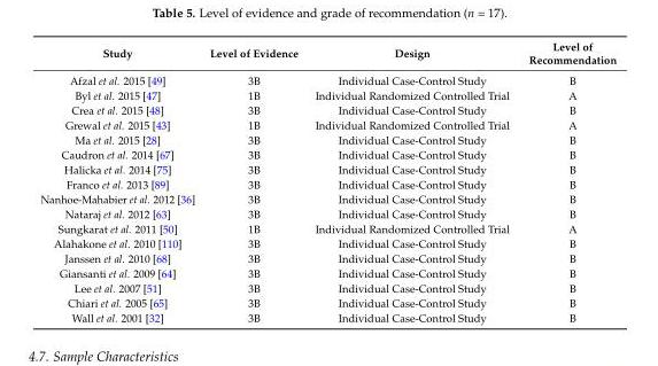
<table><thead><tr><td>Study</td><td>Level of Evidence</td><td>Design</td><td>Level of Recommendation</td></tr></thead><tbody><tr><td>Afzal et al. 2015 [49]</td><td>3B</td><td>Individual Case-Control Study</td><td>B</td></tr><tr><td>Byl et al. 2015 [47]</td><td>1B</td><td>Individual Randomized Controlled Trial</td><td>A</td></tr><tr><td>Crea et al. 2015 [48]</td><td>3B</td><td>Individual Case-Control Study</td><td>B</td></tr><tr><td>Grewal et al. 2015 [43]</td><td>1B</td><td>Individual Randomized Controlled Trial</td><td>A</td></tr><tr><td>Ma et al. 2015 [28]</td><td>3B</td><td>Individual Case-Control Study</td><td>B</td></tr><tr><td>Caudron et al. 2014 [67]</td><td>3B</td><td>Individual Case-Control Study</td><td>B</td></tr><tr><td>Halicka et al. 2014 [75]</td><td>3B</td><td>Individual Case-Control Study</td><td>B</td></tr><tr><td>Franco et al. 2013 [89]</td><td>3B</td><td>Individual Case-Control Study</td><td>B</td></tr><tr><td>Nanhoe-Mahabier et al. 2012 [36]</td><td>3B</td><td>Individual Case-Control Study</td><td>B</td></tr><tr><td>Nataraj et al. 2012 [63]</td><td>3B</td><td>Individual Case-Control Study</td><td>B</td></tr><tr><td>Sungkarat et al. 2011 [50]</td><td>1B</td><td>Individual Randomized Controlled Trial</td><td>A</td></tr><tr><td>Alahakone et al. 2010 [110]</td><td>3B</td><td>Individual Case-Control Study</td><td>B</td></tr><tr><td>Janssen et al. 2010 [68]</td><td>3B</td><td>Individual Case-Control Study</td><td>B</td></tr><tr><td>Giansanti et al. 2009 [64]</td><td>3B</td><td>Individual Case-Control Study</td><td>B</td></tr><tr><td>Lee et al. 2007 [51]</td><td>3B</td><td>Individual Case-Control Study</td><td>B</td></tr><tr><td>Chiari et al. 2005 [65]</td><td>3B</td><td>Individual Case-Control Study</td><td>B</td></tr><tr><td>Wall et al. 2001 [32]</td><td>3B</td><td>Individual Case-Control Study</td><td>B</td></tr></tbody></table>